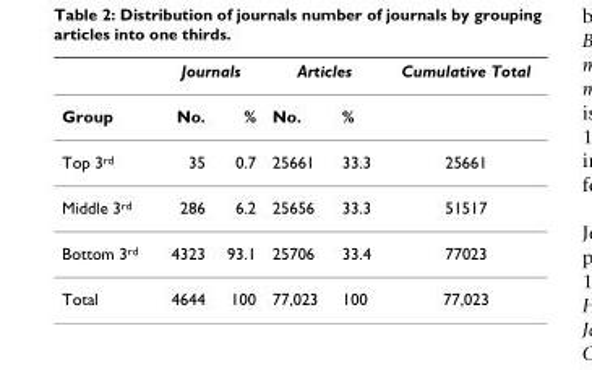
<table><thead><tr><td rowspan="2">Group</td><td colspan="2">Journals</td><td colspan="2">Articles</td><td rowspan="2">Cumulative Total</td></tr><tr><td>No.</td><td>%</td><td>No.</td><td>%</td></tr></thead><tbody><tr><td>Top 3<sup>rd</sup></td><td>35</td><td>0.7</td><td>25661</td><td>33.3</td><td>25661</td></tr><tr><td>Middle 3<sup>rd</sup></td><td>286</td><td>6.2</td><td>25656</td><td>33.3</td><td>51517</td></tr><tr><td>Bottom 3<sup>rd</sup></td><td>4323</td><td>93.1</td><td>25706</td><td>33.4</td><td>77023</td></tr><tr><td>Total</td><td>4644</td><td>100</td><td>77,023</td><td>100</td><td>77,023</td></tr></tbody></table>